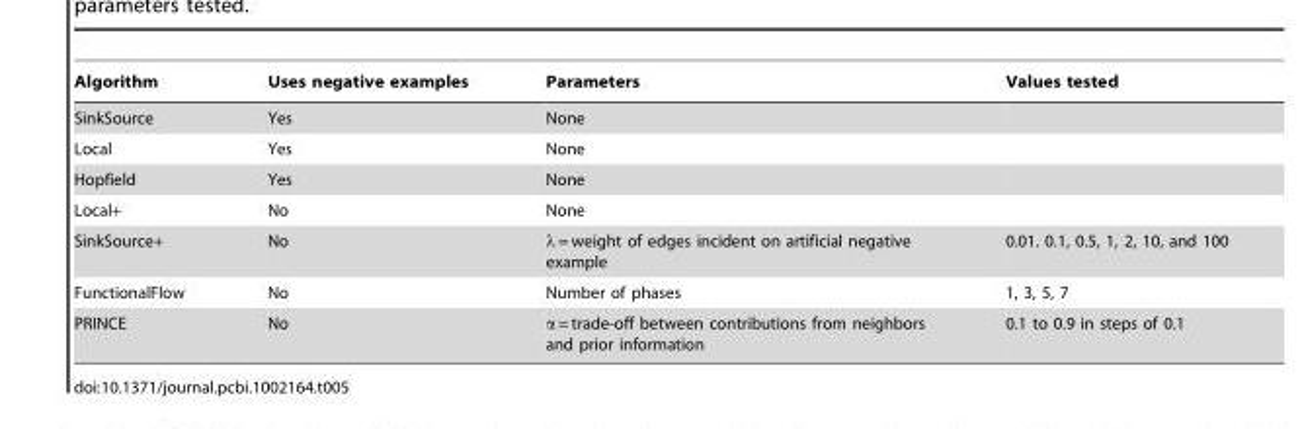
<table><thead><tr><td>Algorithm</td><td>Uses negative examples</td><td>Parameters</td><td>Values tested</td></tr></thead><tbody><tr><td>SinkSource</td><td>Yes</td><td>None</td><td></td></tr><tr><td>Local</td><td>Yes</td><td>None</td><td></td></tr><tr><td>Hopfield</td><td>Yes</td><td>None</td><td></td></tr><tr><td>Local+</td><td>No</td><td>None</td><td></td></tr><tr><td>SinkSource+</td><td>No</td><td>λ = weight of edges incident on artificial negative example</td><td>0.01. 0.1, 0.5, 1, 2, 10, and 100</td></tr><tr><td>FunctionalFlow</td><td>No</td><td>Number of phases</td><td>1, 3, 5, 7</td></tr><tr><td>PRINCE</td><td>No</td><td>α = trade-off between contributions from neighbors and prior information</td><td>0.1 to 0.9 in steps of 0.1</td></tr></tbody></table>